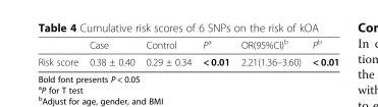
<table><thead><tr><td></td><td>Case</td><td>Control</td><td>P<sup>a</sup></td><td>OR(95%CI)<sup>b</sup></td><td>P<sup>b</sup></td></tr></thead><tbody><tr><td>Risk score</td><td>0.38 ± 0.40</td><td>0.29 ± 0.34</td><td>&lt; 0.01</td><td>2.21(1.36–3.60)</td><td>&lt; 0.01</td></tr></tbody></table>